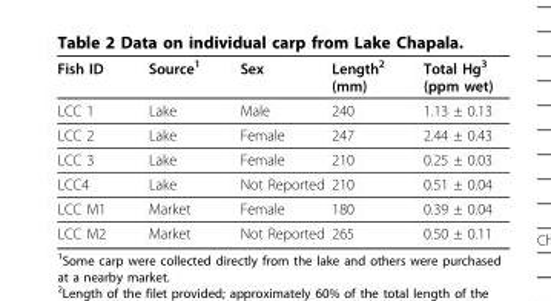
<table><thead><tr><td>Fish ID</td><td>Source<sup>1</sup></td><td>Sex</td><td>Length<sup>2</sup> (mm)</td><td>Total Hg<sup>3</sup> (ppm wet)</td></tr></thead><tbody><tr><td>LCC 1</td><td>Lake</td><td>Male</td><td>240</td><td>1.13 ± 0.13</td></tr><tr><td>LCC 2</td><td>Lake</td><td>Female</td><td>247</td><td>2.44 ± 0.43</td></tr><tr><td>LCC 3</td><td>Lake</td><td>Female</td><td>210</td><td>0.25 ± 0.03</td></tr><tr><td>LCC4</td><td>Lake</td><td>Not Reported</td><td>210</td><td>0.51 ± 0.04</td></tr><tr><td>LCC M1</td><td>Market</td><td>Female</td><td>180</td><td>0.39 ± 0.04</td></tr><tr><td>LCC M2</td><td>Market</td><td>Not Reported</td><td>265</td><td>0.50 ± 0.11</td></tr></tbody></table>